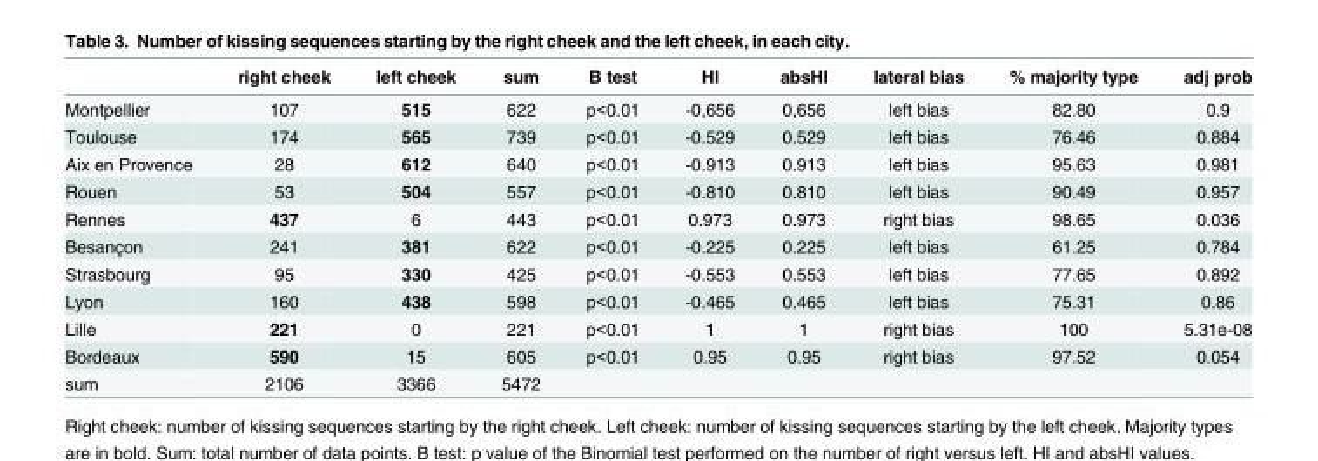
<table><thead><tr><td></td><td>right cheek</td><td>left cheek</td><td>sum</td><td>B test</td><td>HI</td><td>absHI</td><td>lateral bias</td><td>% majority type</td><td>adj prob</td></tr></thead><tbody><tr><td>Montpellier</td><td>107</td><td>515</td><td>622</td><td>p&lt;0.01</td><td>-0,656</td><td>0,656</td><td>left bias</td><td>82.80</td><td>0.9</td></tr><tr><td>Toulouse</td><td>174</td><td>565</td><td>739</td><td>p&lt;0.01</td><td>-0.529</td><td>0.529</td><td>left bias</td><td>76.46</td><td>0.884</td></tr><tr><td>Aix en Provence</td><td>28</td><td>612</td><td>640</td><td>p&lt;0.01</td><td>-0.913</td><td>0.913</td><td>left bias</td><td>95.63</td><td>0.981</td></tr><tr><td>Rouen</td><td>53</td><td>504</td><td>557</td><td>p&lt;0.01</td><td>-0.810</td><td>0.810</td><td>left bias</td><td>90.49</td><td>0.957</td></tr><tr><td>Rennes</td><td>437</td><td>6</td><td>443</td><td>p&lt;0.01</td><td>0.973</td><td>0.973</td><td>right bias</td><td>98.65</td><td>0.036</td></tr><tr><td>Besançon</td><td>241</td><td>381</td><td>622</td><td>p&lt;0.01</td><td>-0.225</td><td>0.225</td><td>left bias</td><td>61.25</td><td>0.784</td></tr><tr><td>Strasbourg</td><td>95</td><td>330</td><td>425</td><td>p&lt;0.01</td><td>-0.553</td><td>0.553</td><td>left bias</td><td>77.65</td><td>0.892</td></tr><tr><td>Lyon</td><td>160</td><td>438</td><td>598</td><td>p&lt;0.01</td><td>-0.465</td><td>0.465</td><td>left bias</td><td>75.31</td><td>0.86</td></tr><tr><td>Lille</td><td>221</td><td>0</td><td>221</td><td>p&lt;0.01</td><td>1</td><td>1</td><td>right bias</td><td>100</td><td>5.31e-08</td></tr><tr><td>Bordeaux</td><td>590</td><td>15</td><td>605</td><td>p&lt;0.01</td><td>0.95</td><td>0.95</td><td>right bias</td><td>97.52</td><td>0.054</td></tr><tr><td>sum</td><td>2106</td><td>3366</td><td>5472</td><td></td><td></td><td></td><td></td><td></td><td></td></tr></tbody></table>